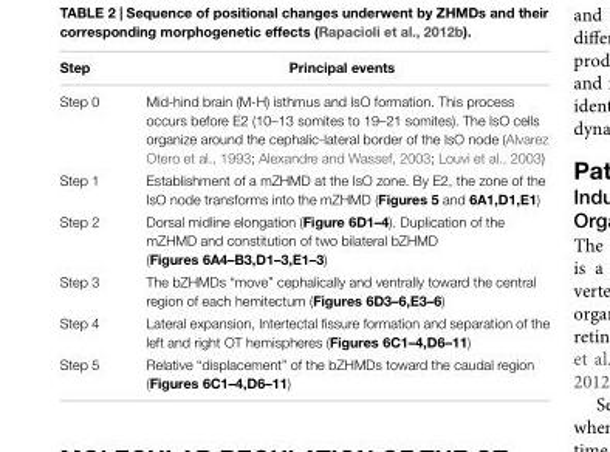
<table><thead><tr><td>Step</td><td>Principal events</td></tr></thead><tbody><tr><td>Step 0</td><td>Mid-hind brain (M-H) isthmus and IsO formation. This process occurs before E2 (10–13 somites to 19–21 somites). The IsO cells organize around the cephalic-lateral border of the IsO node (Alvarez Otero et al., 1993; Alexandre and Wassef, 2003; Louvi et al., 2003)</td></tr><tr><td>Step 1</td><td>Establishment of a mZHMD at the IsO zone. By E2, the zone of the IsO node transforms into the mZHMD (Figures 5 and 6A1,D1,E1)</td></tr><tr><td>Step 2</td><td>Dorsal midline elongation (Figure 6D1–4). Duplication of the mZHMD and constitution of two bilateral bZHMD (Figures 6A4–B3,D1–3,E1–3)</td></tr><tr><td>Step 3</td><td>The bZHMDs “move” cephalically and ventrally toward the central region of each hemitectum (Figures 6D3–6,E3–6)</td></tr><tr><td>Step 4</td><td>Lateral expansion, Intertectal fissure formation and separation of the left and right OT hemispheres (Figures 6C1–4,D6–11)</td></tr><tr><td>Step 5</td><td>Relative “displacement” of the bZHMDs toward the caudal region (Figures 6C1–4,D6–11)</td></tr></tbody></table>